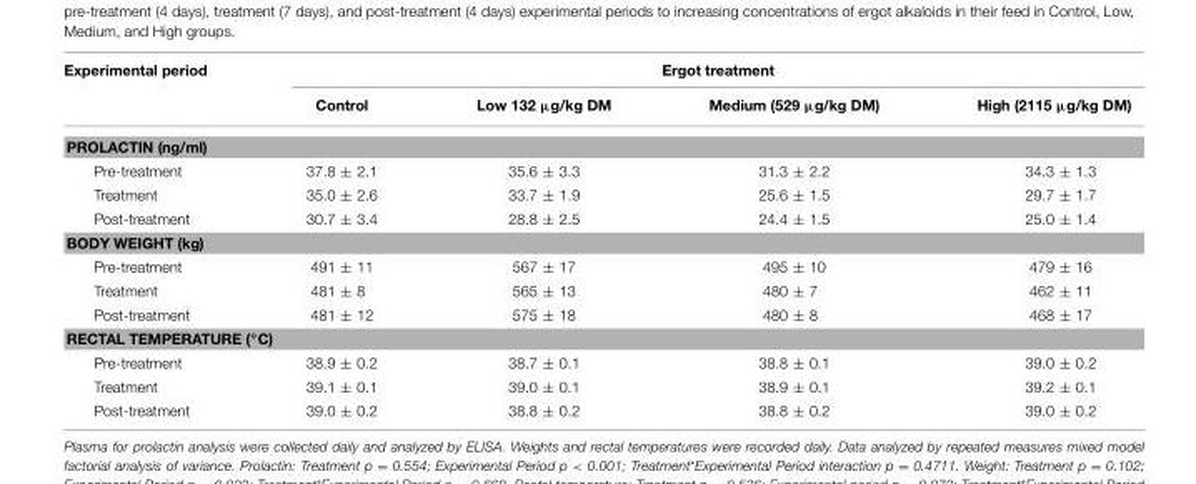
<table><thead><tr><td rowspan="2">Experimental period</td><td colspan="4">Ergot treatment</td></tr><tr><td>Control</td><td>Low 132 µg/kg DM</td><td>Medium (529 µg/kg DM)</td><td>High (2115 µg/kg DM)</td></tr></thead><tbody><tr><td colspan="5">PROLACTIN (ng/ml)</td></tr><tr><td>Pre-treatment</td><td>37.8 ± 2.1</td><td>35.6 ± 3.3</td><td>31.3 ± 2.2</td><td>34.3 ± 1.3</td></tr><tr><td>Treatment</td><td>35.0 ± 2.6</td><td>33.7 ± 1.9</td><td>25.6 ± 1.5</td><td>29.7 ± 1.7</td></tr><tr><td>Post-treatment</td><td>30.7 ± 3.4</td><td>28.8 ± 2.5</td><td>24.4 ± 1.5</td><td>25.0 ± 1.4</td></tr><tr><td colspan="5">BODY WEIGHT (kg)</td></tr><tr><td>Pre-treatment</td><td>491 ± 11</td><td>567 ± 17</td><td>495 ± 10</td><td>479 ± 16</td></tr><tr><td>Treatment</td><td>481 ± 8</td><td>565 ± 13</td><td>480 ± 7</td><td>462 ± 11</td></tr><tr><td>Post-treatment</td><td>481 ± 12</td><td>575 ± 18</td><td>480 ± 8</td><td>468 ± 17</td></tr><tr><td colspan="5">RECTAL TEMPERATURE (◦C)</td></tr><tr><td>Pre-treatment</td><td>38.9 ± 0.2</td><td>38.7 ± 0.1</td><td>38.8 ± 0.1</td><td>39.0 ± 0.2</td></tr><tr><td>Treatment</td><td>39.1 ± 0.1</td><td>39.0 ± 0.1</td><td>38.9 ± 0.1</td><td>39.2 ± 0.1</td></tr><tr><td>Post-treatment</td><td>39.0 ± 0.2</td><td>38.8 ± 0.2</td><td>38.8 ± 0.2</td><td>39.0 ± 0.2</td></tr></tbody></table>